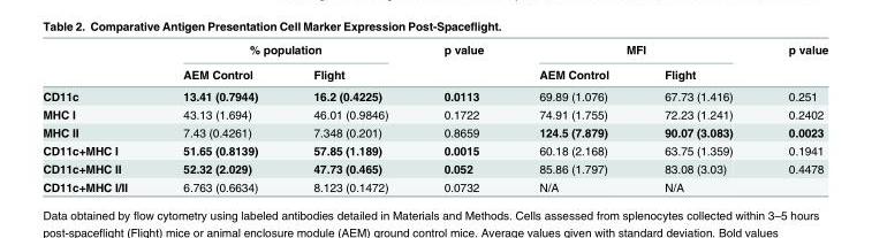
<table><thead><tr><td rowspan="2"></td><td colspan="2">% population</td><td rowspan="2">p value</td><td colspan="2">MFI</td><td rowspan="2">p value</td></tr><tr><td>AEM Control</td><td>Flight</td><td>AEM Control</td><td>Flight</td></tr></thead><tbody><tr><td>CD11c</td><td>13.41 (0.7944)</td><td>16.2 (0.4225)</td><td>0.0113</td><td>69.89 (1.076)</td><td>67.73 (1.416)</td><td>0.251</td></tr><tr><td>MHC I</td><td>43.13 (1.694)</td><td>46.01 (0.9846)</td><td>0.1722</td><td>74.91 (1.755)</td><td>72.23 (1.241)</td><td>0.2402</td></tr><tr><td>MHC II</td><td>7.43 (0.4261)</td><td>7.348 (0.201)</td><td>0.8659</td><td>124.5 (7.879)</td><td>90.07 (3.083)</td><td>0.0023</td></tr><tr><td>CD11c+MHC I</td><td>51.65 (0.8139)</td><td>57.85 (1.189)</td><td>0.0015</td><td>60.18 (2.168)</td><td>63.75 (1.359)</td><td>0.1941</td></tr><tr><td>CD11c+MHC II</td><td>52.32 (2.029)</td><td>47.73 (0.465)</td><td>0.052</td><td>85.86 (1.797)</td><td>83.08 (3.03)</td><td>0.4478</td></tr><tr><td>CD11c+MHC I/II</td><td>6.763 (0.6634)</td><td>8.123 (0.1472)</td><td>0.0732</td><td>N/A</td><td>N/A</td><td></td></tr></tbody></table>